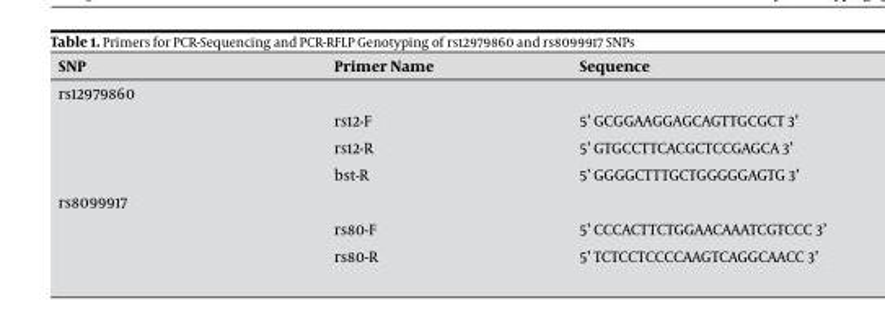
<table><thead><tr><td>SNP</td><td>Primer Name</td><td>Sequence</td></tr></thead><tbody><tr><td colspan="3">rs12979860</td></tr><tr><td></td><td>rs12-F</td><td>5’ GCGGAAGGAGCAGTTGCGCT 3’</td></tr><tr><td></td><td>rs12-R</td><td>5’ GTGCCTTCACGCTCCGAGCA 3’</td></tr><tr><td></td><td>bst-R</td><td>5’ GGGGCTTTGCTGGGGGAGTG 3’</td></tr><tr><td colspan="3">rs8099917</td></tr><tr><td></td><td>rs80-F</td><td>5’ CCCACTTCTGGAACAAATCGTCCC 3’</td></tr><tr><td></td><td>rs80-R</td><td>5’ TCTCCTCCCCAAGTCAGGCAACC 3’</td></tr></tbody></table>